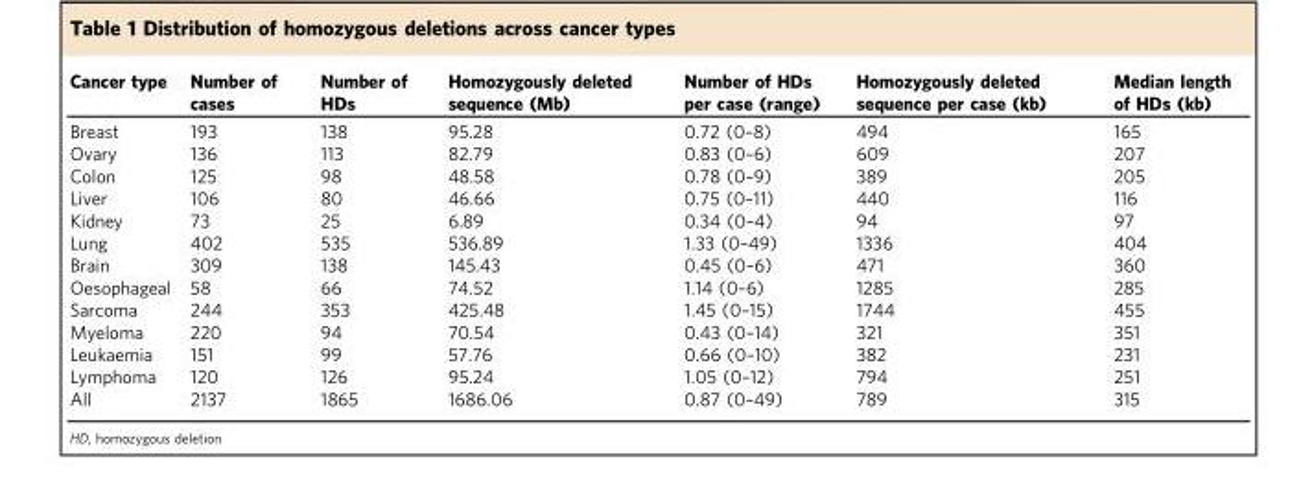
<table><thead><tr><td>Cancer type</td><td>Number of cases</td><td>Number of HDs</td><td>Homozygously deleted sequence (Mb)</td><td>Number of HDs per case (range)</td><td>Homozygously deleted sequence per case (kb)</td><td>Median length of HDs (kb)</td></tr></thead><tbody><tr><td>Breast</td><td>193</td><td>138</td><td>95.28</td><td>0.72 (0–8)</td><td>494</td><td>165</td></tr><tr><td>Ovary</td><td>136</td><td>113</td><td>82.79</td><td>0.83 (0–6)</td><td>609</td><td>207</td></tr><tr><td>Colon</td><td>125</td><td>98</td><td>48.58</td><td>0.78 (0–9)</td><td>389</td><td>205</td></tr><tr><td>Liver</td><td>106</td><td>80</td><td>46.66</td><td>0.75 (0–11)</td><td>440</td><td>116</td></tr><tr><td>Kidney</td><td>73</td><td>25</td><td>6.89</td><td>0.34 (0–4)</td><td>94</td><td>97</td></tr><tr><td>Lung</td><td>402</td><td>535</td><td>536.89</td><td>1.33 (0–49)</td><td>1336</td><td>404</td></tr><tr><td>Brain</td><td>309</td><td>138</td><td>145.43</td><td>0.45 (0–6)</td><td>471</td><td>360</td></tr><tr><td>Oesophageal</td><td>58</td><td>66</td><td>74.52</td><td>1.14 (0–6)</td><td>1285</td><td>285</td></tr><tr><td>Sarcoma</td><td>244</td><td>353</td><td>425.48</td><td>1.45 (0–15)</td><td>1744</td><td>455</td></tr><tr><td>Myeloma</td><td>220</td><td>94</td><td>70.54</td><td>0.43 (0–14)</td><td>321</td><td>351</td></tr><tr><td>Leukaemia</td><td>151</td><td>99</td><td>57.76</td><td>0.66 (0–10)</td><td>382</td><td>231</td></tr><tr><td>Lymphoma</td><td>120</td><td>126</td><td>95.24</td><td>1.05 (0–12)</td><td>794</td><td>251</td></tr><tr><td>All</td><td>2137</td><td>1865</td><td>1686.06</td><td>0.87 (0–49)</td><td>789</td><td>315</td></tr></tbody></table>